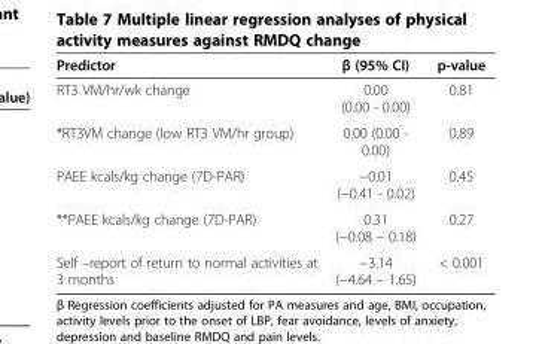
<table><thead><tr><td>Predictor</td><td>β (95% CI)</td><td>p-value</td></tr></thead><tbody><tr><td>RT3 VM/hr/wk change</td><td>0.00 (0.00 - 0.00)</td><td>0.81</td></tr><tr><td>*RT3VM change (low RT3 VM/hr group)</td><td>0.00 (0.00 - 0.00)</td><td>0.89</td></tr><tr><td>PAEE kcals/kg change (7D-PAR)</td><td>−0.01 (−0.41 - 0.02)</td><td>0.45</td></tr><tr><td>**PAEE kcals/kg change (7D-PAR)</td><td>0.31 (−0.08 – 0.18)</td><td>0.27</td></tr><tr><td>Self –report of return to normal activities at 3 months</td><td>−3.14 (−4.64 – 1.65)</td><td>&lt; 0.001</td></tr></tbody></table>